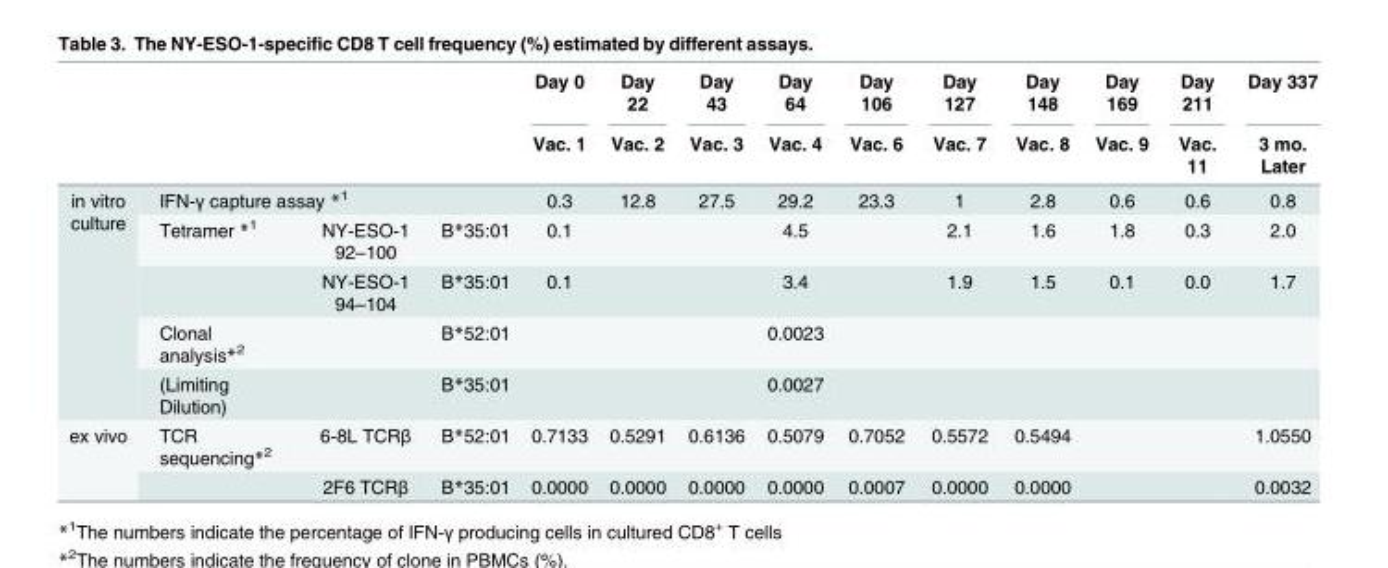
<table><thead><tr><td rowspan="2"></td><td rowspan="2"></td><td rowspan="2"></td><td rowspan="2"></td><td rowspan="2">Day 0 Vac. 1</td><td rowspan="2">Day 22 Vac. 2</td><td rowspan="2">Day 43 Vac. 3</td><td rowspan="2">Day 64 Vac. 4</td><td rowspan="2">Day 106 Vac. 6</td><td rowspan="2">Day 127 Vac. 7</td><td rowspan="2">Day 148 Vac. 8</td><td rowspan="2">Day 169 Vac. 9</td><td rowspan="2">Day 211 Vac. 11</td><td rowspan="2">Day 337 3 mo. Later</td></tr><tr></tr></thead><tbody><tr><td rowspan="5">in vitro culture</td><td colspan="2">IFN-γ capture assay *<sup>1</sup></td><td></td><td>0.3</td><td>12.8</td><td>27.5</td><td>29.2</td><td>23.3</td><td>1</td><td>2.8</td><td>0.6</td><td>0.6</td><td>0.8</td></tr><tr><td>Tetramer *<sup>1</sup></td><td>NY-ESO-1 92–100</td><td>B*35:01</td><td>0.1</td><td></td><td></td><td>4.5</td><td></td><td>2.1</td><td>1.6</td><td>1.8</td><td>0.3</td><td>2.0</td></tr><tr><td></td><td>NY-ESO-1 94–104</td><td>B*35:01</td><td>0.1</td><td></td><td></td><td>3.4</td><td></td><td>1.9</td><td>1.5</td><td>0.1</td><td>0.0</td><td>1.7</td></tr><tr><td>Clonal analysis*<sup>2</sup></td><td></td><td>B*52:01</td><td></td><td></td><td></td><td>0.0023</td><td></td><td></td><td></td><td></td><td></td><td></td></tr><tr><td>(Limiting Dilution)</td><td></td><td>B*35:01</td><td></td><td></td><td></td><td>0.0027</td><td></td><td></td><td></td><td></td><td></td><td></td></tr><tr><td rowspan="2">ex vivo</td><td>TCR sequencing*<sup>2</sup></td><td>6-8L TCRβ</td><td>B*52:01</td><td>0.7133</td><td>0.5291</td><td>0.6136</td><td>0.5079</td><td>0.7052</td><td>0.5572</td><td>0.5494</td><td></td><td></td><td>1.0550</td></tr><tr><td></td><td>2F6 TCRβ</td><td>B*35:01</td><td>0.0000</td><td>0.0000</td><td>0.0000</td><td>0.0000</td><td>0.0007</td><td>0.0000</td><td>0.0000</td><td></td><td></td><td>0.0032</td></tr></tbody></table>